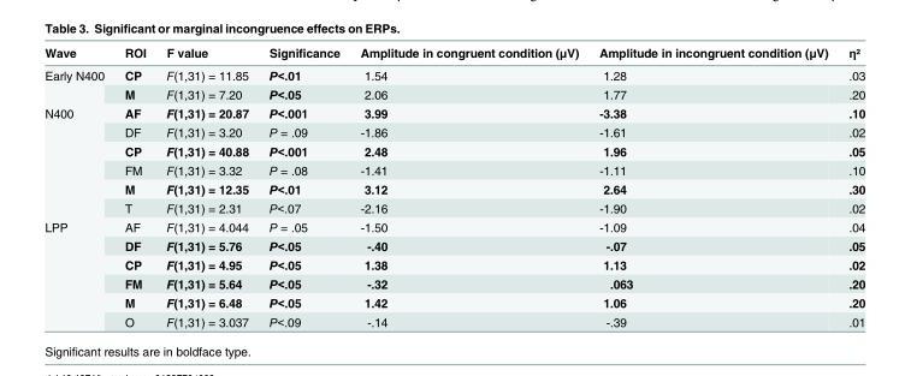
<table><thead><tr><td>Wave</td><td>ROI</td><td>F value</td><td>Significance</td><td>Amplitude in congruent condition (μV)</td><td>Amplitude in incongruent condition (μV)</td><td>η²</td></tr></thead><tbody><tr><td rowspan="2">Early N400</td><td>CP</td><td>F(1,31) = 11.85</td><td>P&lt;.01</td><td>1.54</td><td>1.28</td><td>.03</td></tr><tr><td>M</td><td>F(1,31) = 7.20</td><td>P&lt;.05</td><td>2.06</td><td>1.77</td><td>.20</td></tr><tr><td rowspan="6">N400</td><td>AF</td><td>F(1,31) = 20.87</td><td>P&lt;.001</td><td>3.99</td><td>-3.38</td><td>.10</td></tr><tr><td>DF</td><td>F(1,31) = 3.20</td><td>P = .09</td><td>-1.86</td><td>-1.61</td><td>.02</td></tr><tr><td>CP</td><td>F(1,31) = 40.88</td><td>P&lt;.001</td><td>2.48</td><td>1.96</td><td>.05</td></tr><tr><td>FM</td><td>F(1,31) = 3.32</td><td>P = .08</td><td>-1.41</td><td>-1.11</td><td>.10</td></tr><tr><td>M</td><td>F(1,31) = 12.35</td><td>P&lt;.01</td><td>3.12</td><td>2.64</td><td>.30</td></tr><tr><td>T</td><td>F(1,31) = 2.31</td><td>P&lt;.07</td><td>-2.16</td><td>-1.90</td><td>.02</td></tr><tr><td rowspan="6">LPP</td><td>AF</td><td>F(1,31) = 4.044</td><td>P = .05</td><td>-1.50</td><td>-1.09</td><td>.04</td></tr><tr><td>DF</td><td>F(1,31) = 5.76</td><td>P&lt;.05</td><td>-.40</td><td>-.07</td><td>.05</td></tr><tr><td>CP</td><td>F(1,31) = 4.95</td><td>P&lt;.05</td><td>1.38</td><td>1.13</td><td>.02</td></tr><tr><td>FM</td><td>F(1,31) = 5.64</td><td>P&lt;.05</td><td>-.32</td><td>.063</td><td>.20</td></tr><tr><td>M</td><td>F(1,31) = 6.48</td><td>P&lt;.05</td><td>1.42</td><td>1.06</td><td>.20</td></tr><tr><td>O</td><td>F(1,31) = 3.037</td><td>P&lt;.09</td><td>-.14</td><td>-.39</td><td>.01</td></tr></tbody></table>